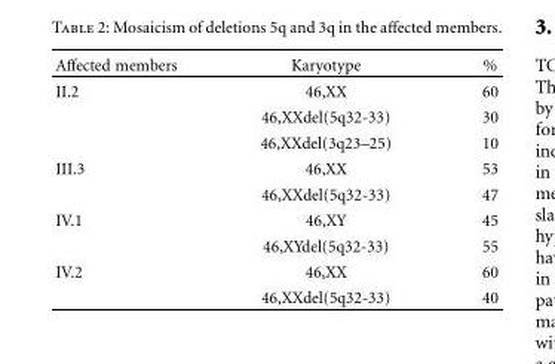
<table><thead><tr><td>Affected members</td><td>Karyotype</td><td>%</td></tr></thead><tbody><tr><td rowspan="3">II.2</td><td>46,XX</td><td>60</td></tr><tr><td>46,XXdel(5q32-33)</td><td>30</td></tr><tr><td>46,XXdel(3q23–25)</td><td>10</td></tr><tr><td rowspan="2">III.3</td><td>46,XX</td><td>53</td></tr><tr><td>46,XXdel(5q32-33)</td><td>47</td></tr><tr><td rowspan="2">IV.1</td><td>46,XY</td><td>45</td></tr><tr><td>46,XYdel(5q32-33)</td><td>55</td></tr><tr><td rowspan="2">IV.2</td><td>46,XX</td><td>60</td></tr><tr><td>46,XXdel(5q32-33)</td><td>40</td></tr></tbody></table>